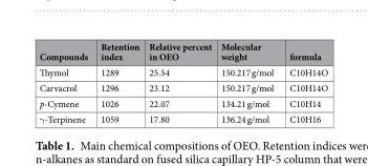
<table><thead><tr><td>Compounds</td><td>Retention index</td><td>Relative percent in OEO</td><td>Molecular weight</td><td>formula</td></tr></thead><tbody><tr><td>Thymol</td><td>1289</td><td>25.54</td><td>150.217 g/mol</td><td>C10H14O</td></tr><tr><td>Carvacrol</td><td>1296</td><td>23.12</td><td>150.217 g/mol</td><td>C10H14O</td></tr><tr><td>p-Cymene</td><td>1026</td><td>22.07</td><td>134.21 g/mol</td><td>C10H14</td></tr><tr><td>γ-Terpinene</td><td>1059</td><td>17.80</td><td>136.24 g/mol</td><td>C10H16</td></tr></tbody></table>